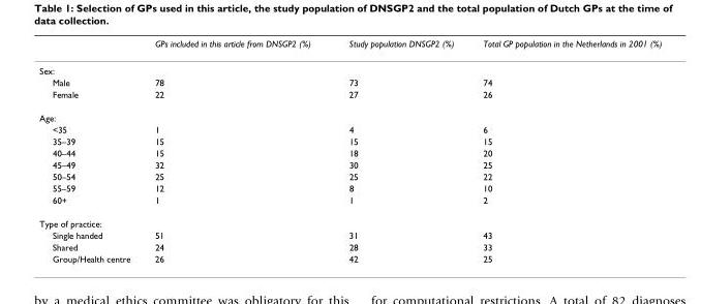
<table><thead><tr><td></td><td>GPs included in this article from DNSGP2 (%)</td><td>Study population DNSGP2 (%)</td><td>Total GP population in the Netherlands in 2001 (%)</td></tr></thead><tbody><tr><td colspan="4">Sex:</td></tr><tr><td>Male</td><td>78</td><td>73</td><td>74</td></tr><tr><td>Female</td><td>22</td><td>27</td><td>26</td></tr><tr><td colspan="4">Age:</td></tr><tr><td>&lt;35</td><td>1</td><td>4</td><td>6</td></tr><tr><td>35–39</td><td>15</td><td>15</td><td>15</td></tr><tr><td>40–44</td><td>15</td><td>18</td><td>20</td></tr><tr><td>45–49</td><td>32</td><td>30</td><td>25</td></tr><tr><td>50–54</td><td>25</td><td>25</td><td>22</td></tr><tr><td>55–59</td><td>12</td><td>8</td><td>10</td></tr><tr><td>60+</td><td>1</td><td>1</td><td>2</td></tr><tr><td colspan="4">Type of practice:</td></tr><tr><td>Single handed</td><td>51</td><td>31</td><td>43</td></tr><tr><td>Shared</td><td>24</td><td>28</td><td>33</td></tr><tr><td>Group/Health centre</td><td>26</td><td>42</td><td>25</td></tr></tbody></table>